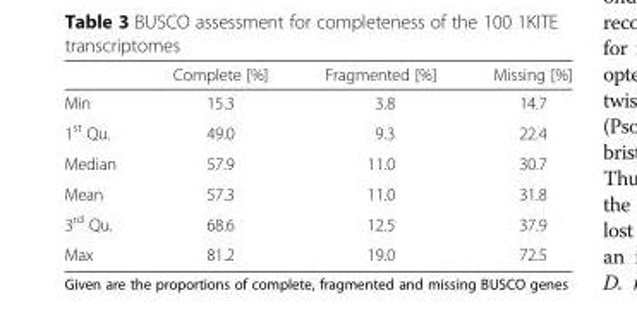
<table><thead><tr><td></td><td>Complete [%]</td><td>Fragmented [%]</td><td>Missing [%]</td></tr></thead><tbody><tr><td>Min</td><td>15.3</td><td>3.8</td><td>14.7</td></tr><tr><td>1<sup>st</sup> Qu.</td><td>49.0</td><td>9.3</td><td>22.4</td></tr><tr><td>Median</td><td>57.9</td><td>11.0</td><td>30.7</td></tr><tr><td>Mean</td><td>57.3</td><td>11.0</td><td>31.8</td></tr><tr><td>3<sup>rd</sup> Qu.</td><td>68.6</td><td>12.5</td><td>37.9</td></tr><tr><td>Max</td><td>81.2</td><td>19.0</td><td>72.5</td></tr></tbody></table>